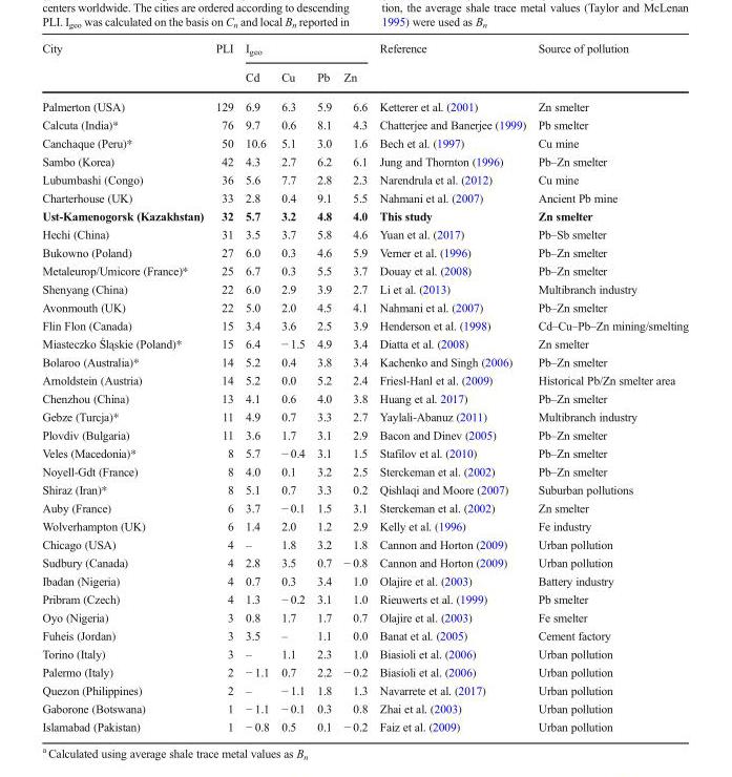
<table><thead><tr><td rowspan="2">City</td><td rowspan="2">PLI</td><td colspan="4">I<sub>geo</sub></td><td rowspan="2">Reference</td><td rowspan="2">Source of pollution</td></tr><tr><td>Cd</td><td>Cu</td><td>Pb</td><td>Zn</td></tr></thead><tbody><tr><td>Palmerton (USA)</td><td>129</td><td>6.9</td><td>6.3</td><td>5.9</td><td>6.6</td><td>Ketterer et al. (2001)</td><td>Zn smelter</td></tr><tr><td>Calcuta (India)*</td><td>76</td><td>9.7</td><td>0.6</td><td>8.1</td><td>4.3</td><td>Chatterjee and Banerjee (1999)</td><td>Pb smelter</td></tr><tr><td>Canchaque (Peru)*</td><td>50</td><td>10.6</td><td>5.1</td><td>3.0</td><td>1.6</td><td>Bech et al. (1997)</td><td>Cu mine</td></tr><tr><td>Sambo (Korea)</td><td>42</td><td>4.3</td><td>2.7</td><td>6.2</td><td>6.1</td><td>Jung and Thornton (1996)</td><td>Pb–Zn smelter</td></tr><tr><td>Lubumbashi (Congo)</td><td>36</td><td>5.6</td><td>7.7</td><td>2.8</td><td>2.3</td><td>Narendrula et al. (2012)</td><td>Cu mine</td></tr><tr><td>Charterhouse (UK)</td><td>33</td><td>2.8</td><td>0.4</td><td>9.1</td><td>5.5</td><td>Nahmani et al. (2007)</td><td>Ancient Pb mine</td></tr><tr><td>Ust-Kamenogorsk (Kazakhstan)</td><td>32</td><td>5.7</td><td>3.2</td><td>4.8</td><td>4.0</td><td>This study</td><td>Zn smelter</td></tr><tr><td>Hechi (China)</td><td>31</td><td>3.5</td><td>3.7</td><td>5.8</td><td>4.6</td><td>Yuan et al. (2017)</td><td>Pb–Sb smelter</td></tr><tr><td>Bukowno (Poland)</td><td>27</td><td>6.0</td><td>0.3</td><td>4.6</td><td>5.9</td><td>Verner et al. (1996)</td><td>Pb–Zn smelter</td></tr><tr><td>Metaleurop/Umicore (France)*</td><td>25</td><td>6.7</td><td>0.3</td><td>5.5</td><td>3.7</td><td>Douay et al. (2008)</td><td>Pb–Zn smelter</td></tr><tr><td>Shenyang (China)</td><td>22</td><td>6.0</td><td>2.9</td><td>3.9</td><td>2.7</td><td>Li et al. (2013)</td><td>Multibranch industry</td></tr><tr><td>Avonmouth (UK)</td><td>22</td><td>5.0</td><td>2.0</td><td>4.5</td><td>4.1</td><td>Nahmani et al. (2007)</td><td>Pb–Zn smelter</td></tr><tr><td>Flin Flon (Canada)</td><td>15</td><td>3.4</td><td>3.6</td><td>2.5</td><td>3.9</td><td>Henderson et al. (1998)</td><td>Cd–Cu–Pb–Zn mining/smelting</td></tr><tr><td>Miasteczko Śląskie (Poland)*</td><td>15</td><td>6.4</td><td>− 1.5</td><td>4.9</td><td>3.4</td><td>Diatta et al. (2008)</td><td>Zn smelter</td></tr><tr><td>Bolaroo (Australia)*</td><td>14</td><td>5.2</td><td>0.4</td><td>3.8</td><td>3.4</td><td>Kachenko and Singh (2006)</td><td>Pb–Zn smelter</td></tr><tr><td>Arnoldstein (Austria)</td><td>14</td><td>5.2</td><td>0.0</td><td>5.2</td><td>2.4</td><td>Friesl-Hanl et al. (2009)</td><td>Historical Pb/Zn smelter area</td></tr><tr><td>Chenzhou (China)</td><td>13</td><td>4.1</td><td>0.6</td><td>4.0</td><td>3.8</td><td>Huang et al. 2017)</td><td>Pb–Zn smelter</td></tr><tr><td>Gebze (Turcja)*</td><td>11</td><td>4.9</td><td>0.7</td><td>3.3</td><td>2.7</td><td>Yaylali-Abanuz (2011)</td><td>Multibranch industry</td></tr><tr><td>Plovdiv (Bulgaria)</td><td>11</td><td>3.6</td><td>1.7</td><td>3.1</td><td>2.9</td><td>Bacon and Dinev (2005)</td><td>Pb–Zn smelter</td></tr><tr><td>Veles (Macedonia)*</td><td>8</td><td>5.7</td><td>− 0.4</td><td>3.1</td><td>1.5</td><td>Stafilov et al. (2010)</td><td>Pb–Zn smelter</td></tr><tr><td>Noyell-Gdt (France)</td><td>8</td><td>4.0</td><td>0.1</td><td>3.2</td><td>2.5</td><td>Sterckeman et al. (2002)</td><td>Pb–Zn smelter</td></tr><tr><td>Shiraz (Iran)*</td><td>8</td><td>5.1</td><td>0.7</td><td>3.3</td><td>0.2</td><td>Qishlaqi and Moore (2007)</td><td>Suburban pollutions</td></tr><tr><td>Auby (France)</td><td>6</td><td>3.7</td><td>− 0.1</td><td>1.5</td><td>3.1</td><td>Sterckeman et al. (2002)</td><td>Zn smelter</td></tr><tr><td>Wolverhampton (UK)</td><td>6</td><td>1.4</td><td>2.0</td><td>1.2</td><td>2.9</td><td>Kelly et al. (1996)</td><td>Fe industry</td></tr><tr><td>Chicago (USA)</td><td>4</td><td>–</td><td>1.8</td><td>3.2</td><td>1.8</td><td>Cannon and Horton (2009)</td><td>Urban pollution</td></tr><tr><td>Sudbury (Canada)</td><td>4</td><td>2.8</td><td>3.5</td><td>0.7</td><td>− 0.8</td><td>Cannon and Horton (2009)</td><td>Urban pollution</td></tr><tr><td>Ibadan (Nigeria)</td><td>4</td><td>0.7</td><td>0.3</td><td>3.4</td><td>1.0</td><td>Olajire et al. (2003)</td><td>Battery industry</td></tr><tr><td>Pribram (Czech)</td><td>4</td><td>1.3</td><td>− 0.2</td><td>3.1</td><td>1.0</td><td>Rieuwerts et al. (1999)</td><td>Pb smelter</td></tr><tr><td>Oyo (Nigeria)</td><td>3</td><td>0.8</td><td>1.7</td><td>1.7</td><td>0.7</td><td>Olajire et al. (2003)</td><td>Fe smelter</td></tr><tr><td>Fuheis (Jordan)</td><td>3</td><td>3.5</td><td>–</td><td>1.1</td><td>0.0</td><td>Banat et al. (2005)</td><td>Cement factory</td></tr><tr><td>Torino (Italy)</td><td>3</td><td>–</td><td>1.1</td><td>2.3</td><td>1.0</td><td>Biasioli et al. (2006)</td><td>Urban pollution</td></tr><tr><td>Palermo (Italy)</td><td>2</td><td>− 1.1</td><td>0.7</td><td>2.2</td><td>− 0.2</td><td>Biasioli et al. (2006)</td><td>Urban pollution</td></tr><tr><td>Quezon (Philippines)</td><td>2</td><td>–</td><td>− 1.1</td><td>1.8</td><td>1.3</td><td>Navarrete et al. (2017)</td><td>Urban pollution</td></tr><tr><td>Gaborone (Botswana)</td><td>1</td><td>− 1.1</td><td>− 0.1</td><td>0.3</td><td>0.8</td><td>Zhai et al. (2003)</td><td>Urban pollution</td></tr><tr><td>Islamabad (Pakistan)</td><td>1</td><td>− 0.8</td><td>0.5</td><td>0.1</td><td>− 0.2</td><td>Faiz et al. (2009)</td><td>Urban pollution</td></tr></tbody></table>